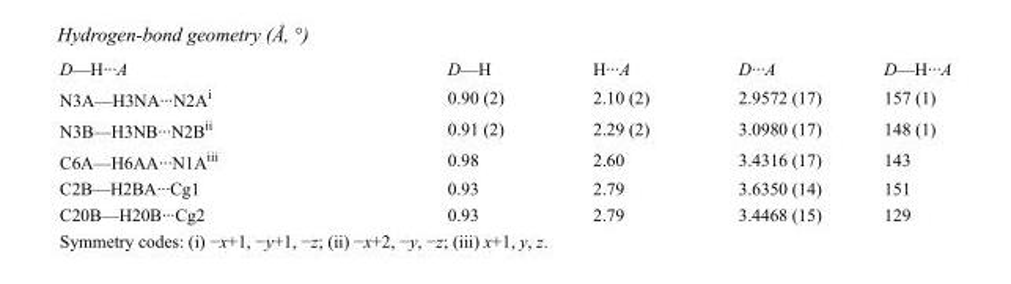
<table><tbody><tr><td>D—H···A</td><td>D—H</td><td>H···A</td><td>D···A</td><td>D—H···A</td></tr><tr><td>N3A—H3NA···N2A<sup>i</sup></td><td>0.90 (2)</td><td>2.10 (2)</td><td>2.9572 (17)</td><td>157 (1)</td></tr><tr><td>N3B—H3NB···N2B<sup>ii</sup></td><td>0.91 (2)</td><td>2.29 (2)</td><td>3.0980 (17)</td><td>148 (1)</td></tr><tr><td>C6A—H6AA···N1A<sup>iii</sup></td><td>0.98</td><td>2.60</td><td>3.4316 (17)</td><td>143</td></tr><tr><td>C2B—H2BA···Cg1</td><td>0.93</td><td>2.79</td><td>3.6350 (14)</td><td>151</td></tr><tr><td>C20B—H20B···Cg2</td><td>0.93</td><td>2.79</td><td>3.4468 (15)</td><td>129</td></tr></tbody></table>